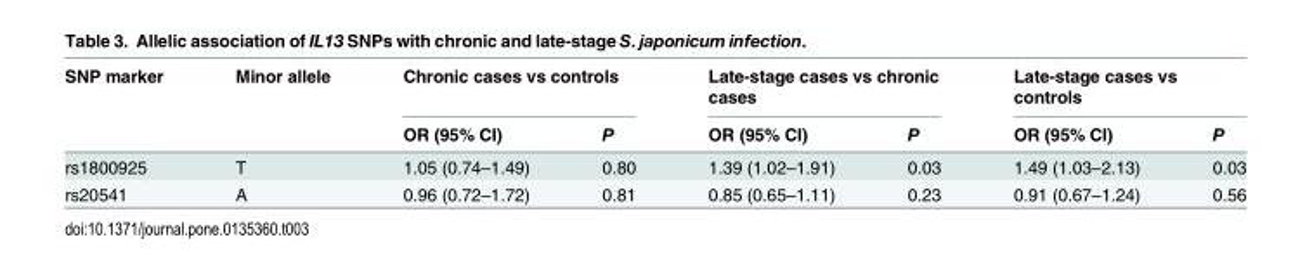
<table><thead><tr><td rowspan="2">SNP marker</td><td rowspan="2">Minor allele</td><td colspan="2">Chronic cases vs controls</td><td colspan="2">Late-stage cases vs chronic cases</td><td colspan="2">Late-stage cases vs controls</td></tr><tr><td>OR (95% CI)</td><td>P</td><td>OR (95% CI)</td><td>P</td><td>OR (95% CI)</td><td>P</td></tr></thead><tbody><tr><td>rs1800925</td><td>T</td><td>1.05 (0.74–1.49)</td><td>0.80</td><td>1.39 (1.02–1.91)</td><td>0.03</td><td>1.49 (1.03–2.13)</td><td>0.03</td></tr><tr><td>rs20541</td><td>A</td><td>0.96 (0.72–1.72)</td><td>0.81</td><td>0.85 (0.65–1.11)</td><td>0.23</td><td>0.91 (0.67–1.24)</td><td>0.56</td></tr></tbody></table>